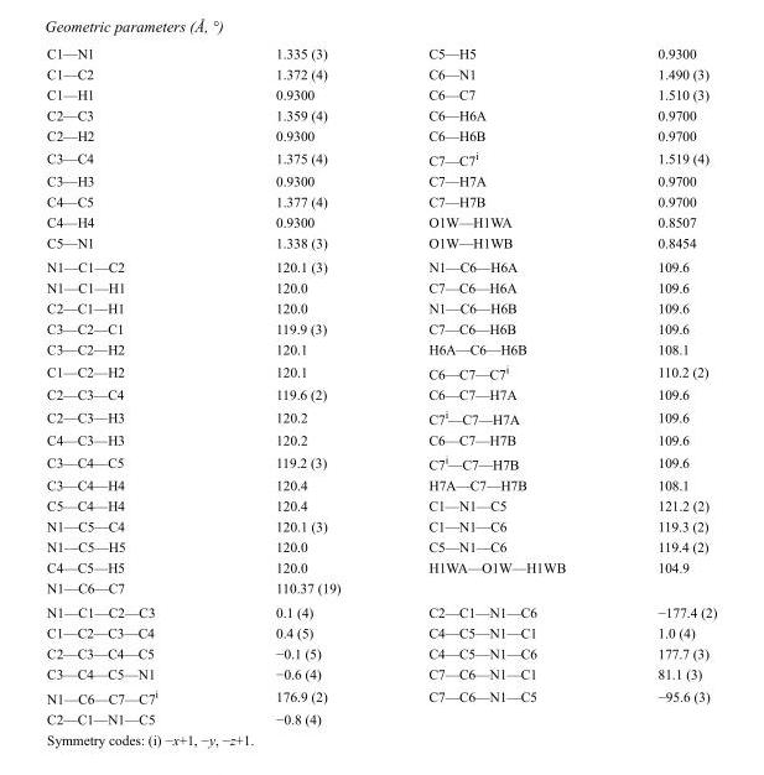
<table><tbody><tr><td>C1—N1</td><td>1.335 (3)</td><td>C5—H5</td><td>0.9300</td></tr><tr><td>C1—C2</td><td>1.372 (4)</td><td>C6—N1</td><td>1.490 (3)</td></tr><tr><td>C1—H1</td><td>0.9300</td><td>C6—C7</td><td>1.510 (3)</td></tr><tr><td>C2—C3</td><td>1.359 (4)</td><td>C6—H6A</td><td>0.9700</td></tr><tr><td>C2—H2</td><td>0.9300</td><td>C6—H6B</td><td>0.9700</td></tr><tr><td>C3—C4</td><td>1.375 (4)</td><td>C7—C7<sup>i</sup></td><td>1.519 (4)</td></tr><tr><td>C3—H3</td><td>0.9300</td><td>C7—H7A</td><td>0.9700</td></tr><tr><td>C4—C5</td><td>1.377 (4)</td><td>C7—H7B</td><td>0.9700</td></tr><tr><td>C4—H4</td><td>0.9300</td><td>O1W—H1WA</td><td>0.8507</td></tr><tr><td>C5—N1</td><td>1.338 (3)</td><td>O1W—H1WB</td><td>0.8454</td></tr><tr><td>N1—C1—C2</td><td>120.1 (3)</td><td>N1—C6—H6A</td><td>109.6</td></tr><tr><td>N1—C1—H1</td><td>120.0</td><td>C7—C6—H6A</td><td>109.6</td></tr><tr><td>C2—C1—H1</td><td>120.0</td><td>N1—C6—H6B</td><td>109.6</td></tr><tr><td>C3—C2—C1</td><td>119.9 (3)</td><td>C7—C6—H6B</td><td>109.6</td></tr><tr><td>C3—C2—H2</td><td>120.1</td><td>H6A—C6—H6B</td><td>108.1</td></tr><tr><td>C1—C2—H2</td><td>120.1</td><td>C6—C7—C7<sup>i</sup></td><td>110.2 (2)</td></tr><tr><td>C2—C3—C4</td><td>119.6 (2)</td><td>C6—C7—H7A</td><td>109.6</td></tr><tr><td>C2—C3—H3</td><td>120.2</td><td>C7<sup>i</sup>—C7—H7A</td><td>109.6</td></tr><tr><td>C4—C3—H3</td><td>120.2</td><td>C6—C7—H7B</td><td>109.6</td></tr><tr><td>C3—C4—C5</td><td>119.2 (3)</td><td>C7<sup>i</sup>—C7—H7B</td><td>109.6</td></tr><tr><td>C3—C4—H4</td><td>120.4</td><td>H7A—C7—H7B</td><td>108.1</td></tr><tr><td>C5—C4—H4</td><td>120.4</td><td>C1—N1—C5</td><td>121.2 (2)</td></tr><tr><td>N1—C5—C4</td><td>120.1 (3)</td><td>C1—N1—C6</td><td>119.3 (2)</td></tr><tr><td>N1—C5—H5</td><td>120.0</td><td>C5—N1—C6</td><td>119.4 (2)</td></tr><tr><td>C4—C5—H5</td><td>120.0</td><td>H1WA—O1W—H1WB</td><td>104.9</td></tr><tr><td>N1—C6—C7</td><td>110.37 (19)</td><td></td><td></td></tr><tr><td>N1—C1—C2—C3</td><td>0.1 (4)</td><td>C2—C1—N1—C6</td><td>−177.4 (2)</td></tr><tr><td>C1—C2—C3—C4</td><td>0.4 (5)</td><td>C4—C5—N1—C1</td><td>1.0 (4)</td></tr><tr><td>C2—C3—C4—C5</td><td>−0.1 (5)</td><td>C4—C5—N1—C6</td><td>177.7 (3)</td></tr><tr><td>C3—C4—C5—N1</td><td>−0.6 (4)</td><td>C7—C6—N1—C1</td><td>81.1 (3)</td></tr><tr><td>N1—C6—C7—C7<sup>i</sup></td><td>176.9 (2)</td><td>C7—C6—N1—C5</td><td>−95.6 (3)</td></tr><tr><td>C2—C1—N1—C5</td><td>−0.8 (4)</td><td></td><td></td></tr></tbody></table>